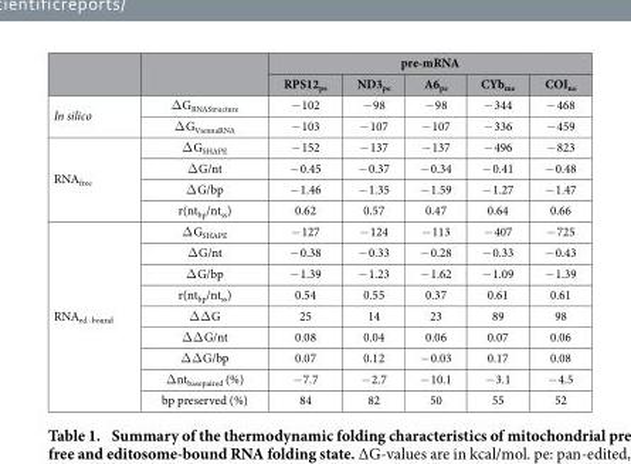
<table><thead><tr><td rowspan="2"></td><td rowspan="2"></td><td colspan="5">pre-mRNA</td></tr><tr><td>RPS12<sub>pe</sub></td><td>ND3<sub>pe</sub></td><td>A6<sub>pe</sub></td><td>CYb<sub>me</sub></td><td>COI<sub>ne</sub></td></tr></thead><tbody><tr><td rowspan="2">In silico</td><td>Δ G<sub>RNAStructure</sub></td><td>− 102</td><td>− 98</td><td>− 98</td><td>− 344</td><td>− 468</td></tr><tr><td>Δ G<sub>ViennaRNA</sub></td><td>− 103</td><td>− 107</td><td>− 107</td><td>− 336</td><td>− 459</td></tr><tr><td rowspan="4">RNA<sub>free</sub></td><td>Δ G<sub>SHAPE</sub></td><td>− 152</td><td>− 137</td><td>− 137</td><td>− 496</td><td>− 823</td></tr><tr><td>Δ G/nt</td><td>− 0.45</td><td>− 0.37</td><td>− 0.34</td><td>− 0.41</td><td>− 0.48</td></tr><tr><td>Δ G/bp</td><td>− 1.46</td><td>− 1.35</td><td>− 1.59</td><td>− 1.27</td><td>− 1.47</td></tr><tr><td>r(nt<sub>bp</sub>/nt<sub>ss</sub>)</td><td>0.62</td><td>0.57</td><td>0.47</td><td>0.64</td><td>0.66</td></tr><tr><td rowspan="9">RNA<sub>ed.-bound</sub></td><td>Δ G<sub>SHAPE</sub></td><td>− 127</td><td>− 124</td><td>− 113</td><td>− 407</td><td>− 725</td></tr><tr><td>Δ G/nt</td><td>− 0.38</td><td>− 0.33</td><td>− 0.28</td><td>− 0.33</td><td>− 0.43</td></tr><tr><td>Δ G/bp</td><td>− 1.39</td><td>− 1.23</td><td>− 1.62</td><td>− 1.09</td><td>− 1.39</td></tr><tr><td>r(nt<sub>bp</sub>/nt<sub>ss</sub>)</td><td>0.54</td><td>0.55</td><td>0.37</td><td>0.61</td><td>0.61</td></tr><tr><td>Δ Δ G</td><td>25</td><td>14</td><td>23</td><td>89</td><td>98</td></tr><tr><td>Δ Δ G/nt</td><td>0.08</td><td>0.04</td><td>0.06</td><td>0.07</td><td>0.06</td></tr><tr><td>Δ Δ G/bp</td><td>0.07</td><td>0.12</td><td>− 0.03</td><td>0.17</td><td>0.08</td></tr><tr><td>Δ nt<sub>basepaired</sub> (%)</td><td>− 7.7</td><td>− 2.7</td><td>− 10.1</td><td>− 3.1</td><td>− 4.5</td></tr><tr><td>bp preserved (%)</td><td>84</td><td>82</td><td>50</td><td>55</td><td>52</td></tr></tbody></table>